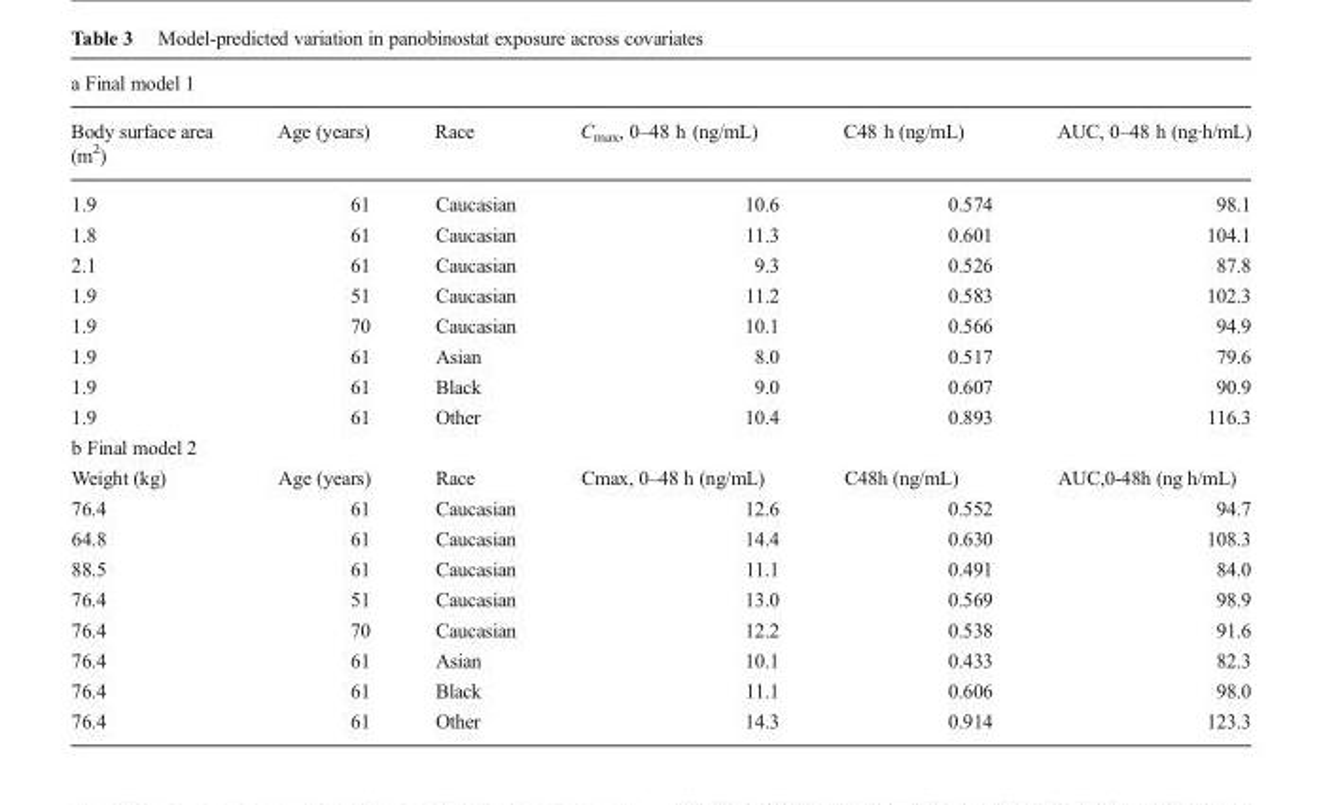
<table><thead><tr><td colspan="6">a Final model 1</td></tr><tr><td>Body surface area (m<sup>2</sup>)</td><td>Age (years)</td><td>Race</td><td>C<sub>max</sub>, 0–48 h (ng/mL)</td><td>C48 h (ng/mL)</td><td>AUC, 0–48 h (ng·h/mL)</td></tr></thead><tbody><tr><td>1.9</td><td>61</td><td>Caucasian</td><td>10.6</td><td>0.574</td><td>98.1</td></tr><tr><td>1.8</td><td>61</td><td>Caucasian</td><td>11.3</td><td>0.601</td><td>104.1</td></tr><tr><td>2.1</td><td>61</td><td>Caucasian</td><td>9.3</td><td>0.526</td><td>87.8</td></tr><tr><td>1.9</td><td>51</td><td>Caucasian</td><td>11.2</td><td>0.583</td><td>102.3</td></tr><tr><td>1.9</td><td>70</td><td>Caucasian</td><td>10.1</td><td>0.566</td><td>94.9</td></tr><tr><td>1.9</td><td>61</td><td>Asian</td><td>8.0</td><td>0.517</td><td>79.6</td></tr><tr><td>1.9</td><td>61</td><td>Black</td><td>9.0</td><td>0.607</td><td>90.9</td></tr><tr><td>1.9</td><td>61</td><td>Other</td><td>10.4</td><td>0.893</td><td>116.3</td></tr><tr><td colspan="6">b Final model 2</td></tr><tr><td>Weight (kg)</td><td>Age (years)</td><td>Race</td><td>Cmax, 0–48 h (ng/mL)</td><td>C48h (ng/mL)</td><td>AUC,0-48h (ng h/mL)</td></tr><tr><td>76.4</td><td>61</td><td>Caucasian</td><td>12.6</td><td>0.552</td><td>94.7</td></tr><tr><td>64.8</td><td>61</td><td>Caucasian</td><td>14.4</td><td>0.630</td><td>108.3</td></tr><tr><td>88.5</td><td>61</td><td>Caucasian</td><td>11.1</td><td>0.491</td><td>84.0</td></tr><tr><td>76.4</td><td>51</td><td>Caucasian</td><td>13.0</td><td>0.569</td><td>98.9</td></tr><tr><td>76.4</td><td>70</td><td>Caucasian</td><td>12.2</td><td>0.538</td><td>91.6</td></tr><tr><td>76.4</td><td>61</td><td>Asian</td><td>10.1</td><td>0.433</td><td>82.3</td></tr><tr><td>76.4</td><td>61</td><td>Black</td><td>11.1</td><td>0.606</td><td>98.0</td></tr><tr><td>76.4</td><td>61</td><td>Other</td><td>14.3</td><td>0.914</td><td>123.3</td></tr></tbody></table>